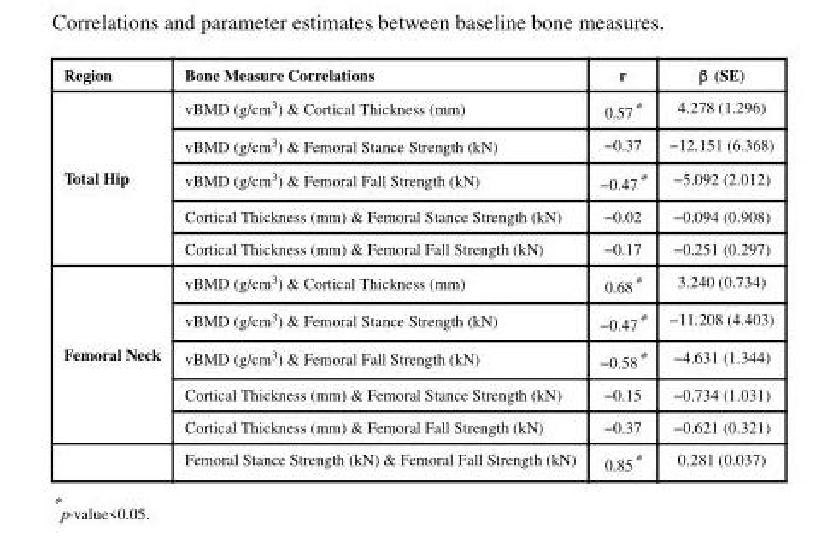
<table><thead><tr><td>Region</td><td>Bone Measure Correlations</td><td>r</td><td>β (SE)</td></tr></thead><tbody><tr><td rowspan="5">Total Hip</td><td>vBMD (g/cm<sup>3</sup>) &amp; Cortical Thickness (mm)</td><td>0.57*</td><td>4.278 (1.296)</td></tr><tr><td>vBMD (g/cm<sup>3</sup>) &amp; Femoral Stance Strength (kN)</td><td>−0.37</td><td>−12.151 (6.368)</td></tr><tr><td>vBMD (g/cm<sup>3</sup>) &amp; Femoral Fall Strength (kN)</td><td>−0.47*</td><td>−5.092 (2.012)</td></tr><tr><td>Cortical Thickness (mm) &amp; Femoral Stance Strength (kN)</td><td>−0.02</td><td>−0.094 (0.908)</td></tr><tr><td>Cortical Thickness (mm) &amp; Femoral Fall Strength (kN)</td><td>−0.17</td><td>−0.251 (0.297)</td></tr><tr><td rowspan="6">Femoral Neck</td><td>vBMD (g/cm<sup>3</sup>) &amp; Cortical Thickness (mm)</td><td>0.68*</td><td>3.240 (0.734)</td></tr><tr><td>vBMD (g/cm<sup>3</sup>) &amp; Femoral Stance Strength (kN)</td><td>−0.47*</td><td>−11.208 (4.403)</td></tr><tr><td>vBMD (g/cm<sup>3</sup>) &amp; Femoral Fall Strength (kN)</td><td>−0.58*</td><td>−4.631 (1.344)</td></tr><tr><td>Cortical Thickness (mm) &amp; Femoral Stance Strength (kN)</td><td>−0.15</td><td>−0.734 (1.031)</td></tr><tr><td>Cortical Thickness (mm) &amp; Femoral Fall Strength (kN)</td><td>−0.37</td><td>−0.621 (0.321)</td></tr><tr><td>Femoral Stance Strength (kN) &amp; Femoral Fall Strength (kN)</td><td>0.85*</td><td>0.281 (0.037)</td></tr></tbody></table>